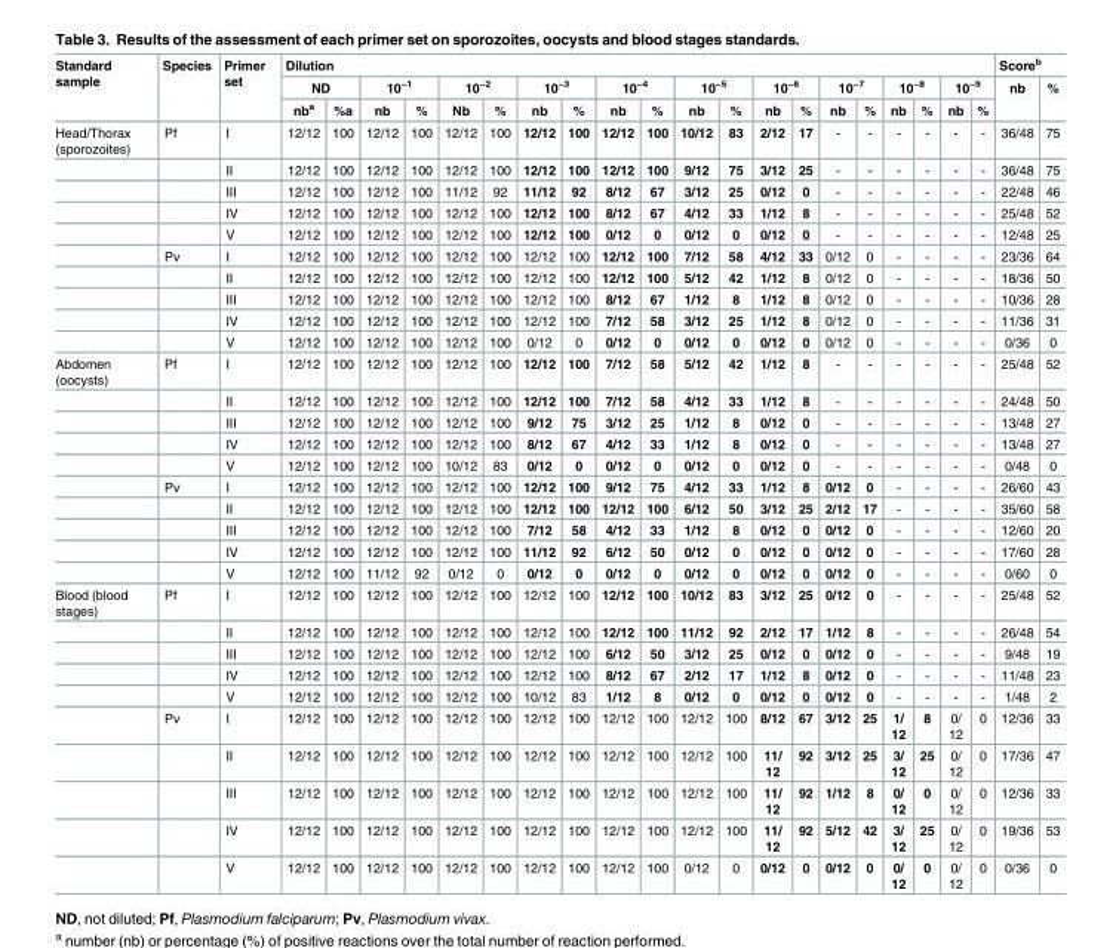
<table><thead><tr><td rowspan="3">Standard sample</td><td rowspan="3">Species</td><td rowspan="3">Primer set</td><td colspan="20">Dilution</td><td colspan="2">Score<sup>b</sup></td></tr><tr><td colspan="2">ND</td><td colspan="2">10<sup>−1</sup></td><td colspan="2">10<sup>−2</sup></td><td colspan="2">10<sup>−3</sup></td><td colspan="2">10<sup>−4</sup></td><td colspan="2">10<sup>−5</sup></td><td colspan="2">10<sup>−6</sup></td><td colspan="2">10<sup>−7</sup></td><td colspan="2">10<sup>−8</sup></td><td colspan="2">10<sup>−9</sup></td><td rowspan="2">nb</td><td rowspan="2">%</td></tr><tr><td>nb<sup>a</sup></td><td>%a</td><td>nb</td><td>%</td><td>Nb</td><td>%</td><td>nb</td><td>%</td><td>nb</td><td>%</td><td>nb</td><td>%</td><td>nb</td><td>%</td><td>nb</td><td>%</td><td>nb</td><td>%</td><td>nb</td><td>%</td></tr></thead><tbody><tr><td rowspan="10">Head/Thorax (sporozoites)</td><td>Pf</td><td>I</td><td>12/12</td><td>100</td><td>12/12</td><td>100</td><td>12/12</td><td>100</td><td>12/12</td><td>100</td><td>12/12</td><td>100</td><td>10/12</td><td>83</td><td>2/12</td><td>17</td><td>-</td><td>-</td><td>-</td><td>-</td><td>-</td><td>-</td><td>36/48</td><td>75</td></tr><tr><td></td><td>II</td><td>12/12</td><td>100</td><td>12/12</td><td>100</td><td>12/12</td><td>100</td><td>12/12</td><td>100</td><td>12/12</td><td>100</td><td>9/12</td><td>75</td><td>3/12</td><td>25</td><td>-</td><td>-</td><td>-</td><td>-</td><td>-</td><td>-</td><td>36/48</td><td>75</td></tr><tr><td></td><td>III</td><td>12/12</td><td>100</td><td>12/12</td><td>100</td><td>11/12</td><td>92</td><td>11/12</td><td>92</td><td>8/12</td><td>67</td><td>3/12</td><td>25</td><td>0/12</td><td>0</td><td>-</td><td>-</td><td>-</td><td>-</td><td>-</td><td>-</td><td>22/48</td><td>46</td></tr><tr><td></td><td>IV</td><td>12/12</td><td>100</td><td>12/12</td><td>100</td><td>12/12</td><td>100</td><td>12/12</td><td>100</td><td>8/12</td><td>67</td><td>4/12</td><td>33</td><td>1/12</td><td>8</td><td>-</td><td>-</td><td>-</td><td>-</td><td>-</td><td>-</td><td>25/48</td><td>52</td></tr><tr><td></td><td>V</td><td>12/12</td><td>100</td><td>12/12</td><td>100</td><td>12/12</td><td>100</td><td>12/12</td><td>100</td><td>0/12</td><td>0</td><td>0/12</td><td>0</td><td>0/12</td><td>0</td><td>-</td><td>-</td><td>-</td><td>-</td><td>-</td><td>-</td><td>12/48</td><td>25</td></tr><tr><td>Pv</td><td>I</td><td>12/12</td><td>100</td><td>12/12</td><td>100</td><td>12/12</td><td>100</td><td>12/12</td><td>100</td><td>12/12</td><td>100</td><td>7/12</td><td>58</td><td>4/12</td><td>33</td><td>0/12</td><td>0</td><td>-</td><td>-</td><td>-</td><td>-</td><td>23/36</td><td>64</td></tr><tr><td></td><td>II</td><td>12/12</td><td>100</td><td>12/12</td><td>100</td><td>12/12</td><td>100</td><td>12/12</td><td>100</td><td>12/12</td><td>100</td><td>5/12</td><td>42</td><td>1/12</td><td>8</td><td>0/12</td><td>0</td><td>-</td><td>-</td><td>-</td><td>-</td><td>18/36</td><td>50</td></tr><tr><td></td><td>III</td><td>12/12</td><td>100</td><td>12/12</td><td>100</td><td>12/12</td><td>100</td><td>12/12</td><td>100</td><td>8/12</td><td>67</td><td>1/12</td><td>8</td><td>1/12</td><td>8</td><td>0/12</td><td>0</td><td>-</td><td>-</td><td>-</td><td>-</td><td>10/36</td><td>28</td></tr><tr><td></td><td>IV</td><td>12/12</td><td>100</td><td>12/12</td><td>100</td><td>12/12</td><td>100</td><td>12/12</td><td>100</td><td>7/12</td><td>58</td><td>3/12</td><td>25</td><td>1/12</td><td>8</td><td>0/12</td><td>0</td><td>-</td><td>-</td><td>-</td><td>-</td><td>11/36</td><td>31</td></tr><tr><td></td><td>V</td><td>12/12</td><td>100</td><td>12/12</td><td>100</td><td>12/12</td><td>100</td><td>0/12</td><td>0</td><td>0/12</td><td>0</td><td>0/12</td><td>0</td><td>0/12</td><td>0</td><td>0/12</td><td>0</td><td>-</td><td>-</td><td>-</td><td>-</td><td>0/36</td><td>0</td></tr><tr><td rowspan="10">Abdomen (oocysts)</td><td>Pf</td><td>I</td><td>12/12</td><td>100</td><td>12/12</td><td>100</td><td>12/12</td><td>100</td><td>12/12</td><td>100</td><td>7/12</td><td>58</td><td>5/12</td><td>42</td><td>1/12</td><td>8</td><td>-</td><td>-</td><td>-</td><td>-</td><td>-</td><td>-</td><td>25/48</td><td>52</td></tr><tr><td></td><td>II</td><td>12/12</td><td>100</td><td>12/12</td><td>100</td><td>12/12</td><td>100</td><td>12/12</td><td>100</td><td>7/12</td><td>58</td><td>4/12</td><td>33</td><td>1/12</td><td>8</td><td>-</td><td>-</td><td>-</td><td>-</td><td>-</td><td>-</td><td>24/48</td><td>50</td></tr><tr><td></td><td>III</td><td>12/12</td><td>100</td><td>12/12</td><td>100</td><td>12/12</td><td>100</td><td>9/12</td><td>75</td><td>3/12</td><td>25</td><td>1/12</td><td>8</td><td>0/12</td><td>0</td><td>-</td><td>-</td><td>-</td><td>-</td><td>-</td><td>-</td><td>13/48</td><td>27</td></tr><tr><td></td><td>IV</td><td>12/12</td><td>100</td><td>12/12</td><td>100</td><td>12/12</td><td>100</td><td>8/12</td><td>67</td><td>4/12</td><td>33</td><td>1/12</td><td>8</td><td>0/12</td><td>0</td><td>-</td><td>-</td><td>-</td><td>-</td><td>-</td><td>-</td><td>13/48</td><td>27</td></tr><tr><td></td><td>V</td><td>12/12</td><td>100</td><td>12/12</td><td>100</td><td>10/12</td><td>83</td><td>0/12</td><td>0</td><td>0/12</td><td>0</td><td>0/12</td><td>0</td><td>0/12</td><td>0</td><td>-</td><td>-</td><td>-</td><td>-</td><td>-</td><td>-</td><td>0/48</td><td>0</td></tr><tr><td>Pv</td><td>I</td><td>12/12</td><td>100</td><td>12/12</td><td>100</td><td>12/12</td><td>100</td><td>12/12</td><td>100</td><td>9/12</td><td>75</td><td>4/12</td><td>33</td><td>1/12</td><td>8</td><td>0/12</td><td>0</td><td>-</td><td>-</td><td>-</td><td>-</td><td>26/60</td><td>43</td></tr><tr><td></td><td>II</td><td>12/12</td><td>100</td><td>12/12</td><td>100</td><td>12/12</td><td>100</td><td>12/12</td><td>100</td><td>12/12</td><td>100</td><td>6/12</td><td>50</td><td>3/12</td><td>25</td><td>2/12</td><td>17</td><td>-</td><td>-</td><td>-</td><td>-</td><td>35/60</td><td>58</td></tr><tr><td></td><td>III</td><td>12/12</td><td>100</td><td>12/12</td><td>100</td><td>12/12</td><td>100</td><td>7/12</td><td>58</td><td>4/12</td><td>33</td><td>1/12</td><td>8</td><td>0/12</td><td>0</td><td>0/12</td><td>0</td><td>-</td><td>-</td><td>-</td><td>-</td><td>12/60</td><td>20</td></tr><tr><td></td><td>IV</td><td>12/12</td><td>100</td><td>12/12</td><td>100</td><td>12/12</td><td>100</td><td>11/12</td><td>92</td><td>6/12</td><td>50</td><td>0/12</td><td>0</td><td>0/12</td><td>0</td><td>0/12</td><td>0</td><td>-</td><td>-</td><td>-</td><td>-</td><td>17/60</td><td>28</td></tr><tr><td></td><td>V</td><td>12/12</td><td>100</td><td>11/12</td><td>92</td><td>0/12</td><td>0</td><td>0/12</td><td>0</td><td>0/12</td><td>0</td><td>0/12</td><td>0</td><td>0/12</td><td>0</td><td>0/12</td><td>0</td><td>-</td><td>-</td><td>-</td><td>-</td><td>0/60</td><td>0</td></tr><tr><td rowspan="10">Blood (blood stages)</td><td>Pf</td><td>I</td><td>12/12</td><td>100</td><td>12/12</td><td>100</td><td>12/12</td><td>100</td><td>12/12</td><td>100</td><td>12/12</td><td>100</td><td>10/12</td><td>83</td><td>3/12</td><td>25</td><td>0/12</td><td>0</td><td>-</td><td>-</td><td>-</td><td>-</td><td>25/48</td><td>52</td></tr><tr><td></td><td>II</td><td>12/12</td><td>100</td><td>12/12</td><td>100</td><td>12/12</td><td>100</td><td>12/12</td><td>100</td><td>12/12</td><td>100</td><td>11/12</td><td>92</td><td>2/12</td><td>17</td><td>1/12</td><td>8</td><td>-</td><td>-</td><td>-</td><td>-</td><td>26/48</td><td>54</td></tr><tr><td></td><td>III</td><td>12/12</td><td>100</td><td>12/12</td><td>100</td><td>12/12</td><td>100</td><td>12/12</td><td>100</td><td>6/12</td><td>50</td><td>3/12</td><td>25</td><td>0/12</td><td>0</td><td>0/12</td><td>0</td><td>-</td><td>-</td><td>-</td><td>-</td><td>9/48</td><td>19</td></tr><tr><td></td><td>IV</td><td>12/12</td><td>100</td><td>12/12</td><td>100</td><td>12/12</td><td>100</td><td>12/12</td><td>100</td><td>8/12</td><td>67</td><td>2/12</td><td>17</td><td>1/12</td><td>8</td><td>0/12</td><td>0</td><td>-</td><td>-</td><td>-</td><td>-</td><td>11/48</td><td>23</td></tr><tr><td></td><td>V</td><td>12/12</td><td>100</td><td>12/12</td><td>100</td><td>12/12</td><td>100</td><td>10/12</td><td>83</td><td>1/12</td><td>8</td><td>0/12</td><td>0</td><td>0/12</td><td>0</td><td>0/12</td><td>0</td><td>-</td><td>-</td><td>-</td><td>-</td><td>1/48</td><td>2</td></tr><tr><td>Pv</td><td>I</td><td>12/12</td><td>100</td><td>12/12</td><td>100</td><td>12/12</td><td>100</td><td>12/12</td><td>100</td><td>12/12</td><td>100</td><td>12/12</td><td>100</td><td>8/12</td><td>67</td><td>3/12</td><td>25</td><td>1/ 12</td><td>8</td><td>0/ 12</td><td>0</td><td>12/36</td><td>33</td></tr><tr><td></td><td>II</td><td>12/12</td><td>100</td><td>12/12</td><td>100</td><td>12/12</td><td>100</td><td>12/12</td><td>100</td><td>12/12</td><td>100</td><td>12/12</td><td>100</td><td>11/ 12</td><td>92</td><td>3/12</td><td>25</td><td>3/ 12</td><td>25</td><td>0/ 12</td><td>0</td><td>17/36</td><td>47</td></tr><tr><td></td><td>III</td><td>12/12</td><td>100</td><td>12/12</td><td>100</td><td>12/12</td><td>100</td><td>12/12</td><td>100</td><td>12/12</td><td>100</td><td>12/12</td><td>100</td><td>11/ 12</td><td>92</td><td>1/12</td><td>8</td><td>0/ 12</td><td>0</td><td>0/ 12</td><td>0</td><td>12/36</td><td>33</td></tr><tr><td></td><td>IV</td><td>12/12</td><td>100</td><td>12/12</td><td>100</td><td>12/12</td><td>100</td><td>12/12</td><td>100</td><td>12/12</td><td>100</td><td>12/12</td><td>100</td><td>11/ 12</td><td>92</td><td>5/12</td><td>42</td><td>3/ 12</td><td>25</td><td>0/ 12</td><td>0</td><td>19/36</td><td>53</td></tr><tr><td></td><td>V</td><td>12/12</td><td>100</td><td>12/12</td><td>100</td><td>12/12</td><td>100</td><td>12/12</td><td>100</td><td>12/12</td><td>100</td><td>0/12</td><td>0</td><td>0/12</td><td>0</td><td>0/12</td><td>0</td><td>0/ 12</td><td>0</td><td>0/ 12</td><td>0</td><td>0/36</td><td>0</td></tr></tbody></table>